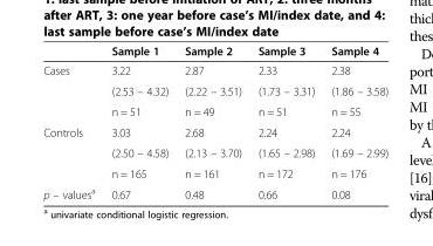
<table><thead><tr><td></td><td>Sample 1</td><td>Sample 2</td><td>Sample 3</td><td>Sample 4</td></tr></thead><tbody><tr><td rowspan="3">Cases</td><td>3.22</td><td>2.87</td><td>2.33</td><td>2.38</td></tr><tr><td>(2.53 – 4.32)</td><td>(2.22 – 3.51)</td><td>(1.73 – 3.31)</td><td>(1.86 – 3.58)</td></tr><tr><td>n = 51</td><td>n = 49</td><td>n = 51</td><td>n = 55</td></tr><tr><td rowspan="3">Controls</td><td>3.03</td><td>2.68</td><td>2.24</td><td>2.24</td></tr><tr><td>(2.50 – 4.58)</td><td>(2.13 – 3.70)</td><td>(1.65 – 2.98)</td><td>(1.69 – 2.99)</td></tr><tr><td>n = 165</td><td>n = 161</td><td>n = 172</td><td>n = 176</td></tr><tr><td>p – values<sup>a</sup></td><td>0.67</td><td>0.48</td><td>0.66</td><td>0.08</td></tr></tbody></table>